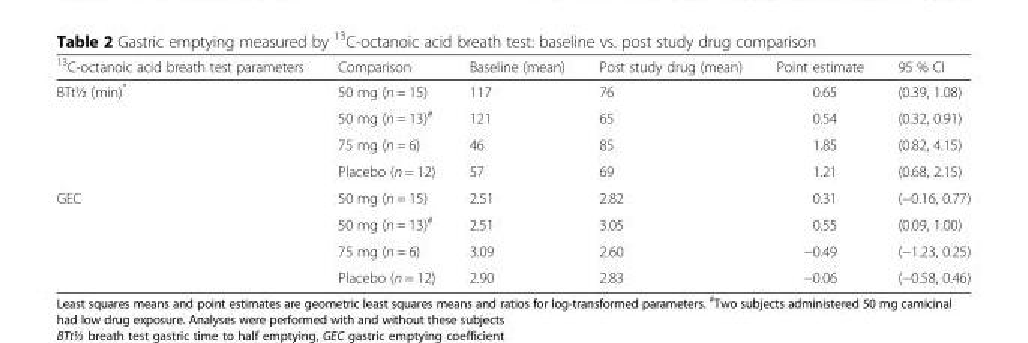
<table><thead><tr><td><sup>13</sup>C-octanoic acid breath test parameters</td><td>Comparison</td><td>Baseline (mean)</td><td>Post study drug (mean)</td><td>Point estimate</td><td>95 % CI</td></tr></thead><tbody><tr><td rowspan="4">BTt½ (min)*</td><td>50 mg (n = 15)</td><td>117</td><td>76</td><td>0.65</td><td>(0.39, 1.08)</td></tr><tr><td>50 mg (n = 13)<sup>#</sup></td><td>121</td><td>65</td><td>0.54</td><td>(0.32, 0.91)</td></tr><tr><td>75 mg (n = 6)</td><td>46</td><td>85</td><td>1.85</td><td>(0.82, 4.15)</td></tr><tr><td>Placebo (n = 12)</td><td>57</td><td>69</td><td>1.21</td><td>(0.68, 2.15)</td></tr><tr><td rowspan="4">GEC</td><td>50 mg (n = 15)</td><td>2.51</td><td>2.82</td><td>0.31</td><td>(−0.16, 0.77)</td></tr><tr><td>50 mg (n = 13)<sup>#</sup></td><td>2.51</td><td>3.05</td><td>0.55</td><td>(0.09, 1.00)</td></tr><tr><td>75 mg (n = 6)</td><td>3.09</td><td>2.60</td><td>−0.49</td><td>(−1.23, 0.25)</td></tr><tr><td>Placebo (n = 12)</td><td>2.90</td><td>2.83</td><td>−0.06</td><td>(−0.58, 0.46)</td></tr></tbody></table>